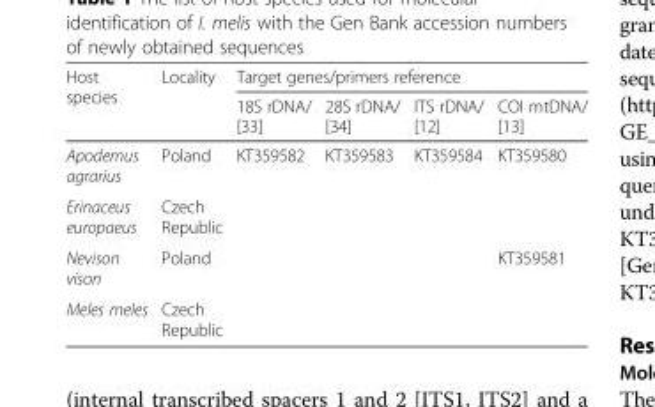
<table><thead><tr><td rowspan="2">Host species</td><td rowspan="2">Locality</td><td colspan="4">Target genes/primers reference</td></tr><tr><td>18S rDNA/ [33]</td><td>28S rDNA/ [34]</td><td>ITS rDNA/ [12]</td><td>COI mtDNA/ [13]</td></tr></thead><tbody><tr><td>Apodemus agrarius</td><td>Poland</td><td>KT359582</td><td>KT359583</td><td>KT359584</td><td>KT359580</td></tr><tr><td>Erinaceus europaeus</td><td>Czech Republic</td><td></td><td></td><td></td><td></td></tr><tr><td>Nevison vison</td><td>Poland</td><td></td><td></td><td></td><td>KT359581</td></tr><tr><td>Meles meles</td><td>Czech Republic</td><td></td><td></td><td></td><td></td></tr></tbody></table>